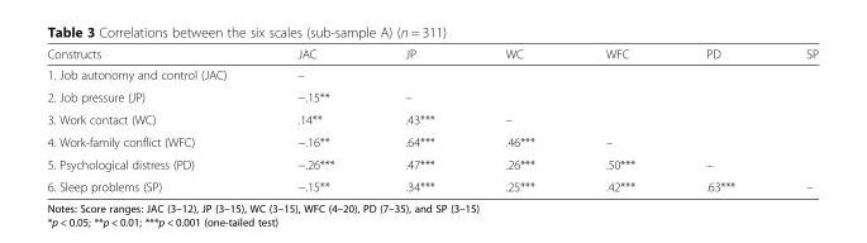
<table><thead><tr><td>Constructs</td><td>JAC</td><td>JP</td><td>WC</td><td>WFC</td><td>PD</td><td>SP</td></tr></thead><tbody><tr><td>1. Job autonomy and control (JAC)</td><td>–</td><td></td><td></td><td></td><td></td><td></td></tr><tr><td>2. Job pressure (JP)</td><td>−.15**</td><td>–</td><td></td><td></td><td></td><td></td></tr><tr><td>3. Work contact (WC)</td><td>.14**</td><td>.43***</td><td>–</td><td></td><td></td><td></td></tr><tr><td>4. Work-family conflict (WFC)</td><td>−.16**</td><td>.64***</td><td>.46***</td><td>–</td><td></td><td></td></tr><tr><td>5. Psychological distress (PD)</td><td>−.26***</td><td>.47***</td><td>.26***</td><td>.50***</td><td>–</td><td></td></tr><tr><td>6. Sleep problems (SP)</td><td>−.15**</td><td>.34***</td><td>.25***</td><td>.42***</td><td>.63***</td><td>–</td></tr></tbody></table>